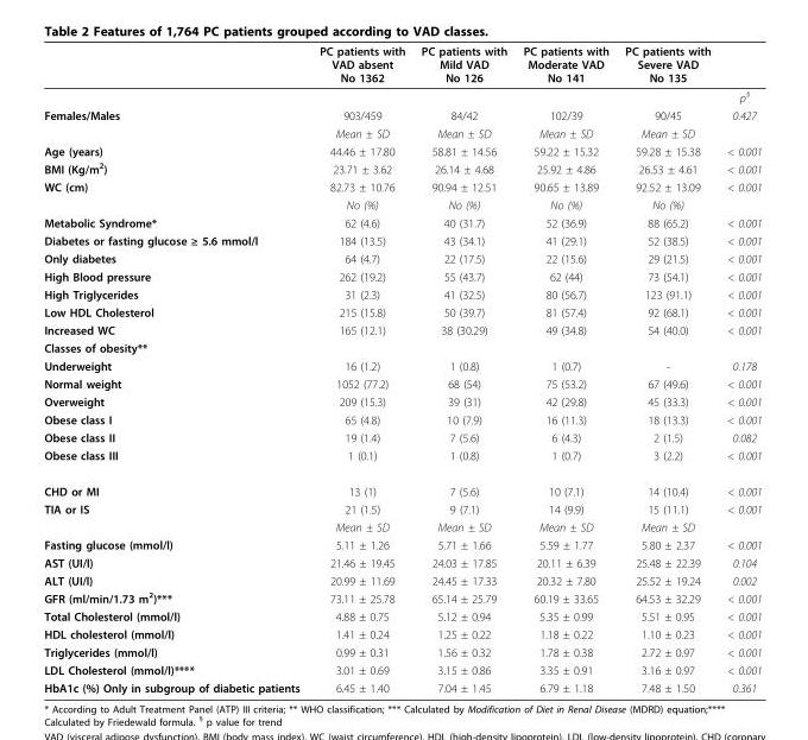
<table><thead><tr><td></td><td>PC patients with VAD absent No 1362</td><td>PC patients with Mild VAD No 126</td><td>PC patients with Moderate VAD No 141</td><td>PC patients with Severe VAD No 135</td><td></td></tr></thead><tbody><tr><td></td><td></td><td></td><td></td><td></td><td>p<sup>§</sup></td></tr><tr><td rowspan="2">Females/Males</td><td>903/459</td><td>84/42</td><td>102/39</td><td>90/45</td><td>0.427</td></tr><tr><td>Mean ± SD</td><td>Mean ± SD</td><td>Mean ± SD</td><td>Mean ± SD</td><td></td></tr><tr><td>Age (years)</td><td>44.46 ± 17.80</td><td>58.81 ± 14.56</td><td>59.22 ± 15.32</td><td>59.28 ± 15.38</td><td>&lt; 0.001</td></tr><tr><td>BMI (Kg/m<sup>2</sup>)</td><td>23.71 ± 3.62</td><td>26.14 ± 4.68</td><td>25.92 ± 4.86</td><td>26.53 ± 4.61</td><td>&lt; 0.001</td></tr><tr><td rowspan="2">WC (cm)</td><td>82.73 ± 10.76</td><td>90.94 ± 12.51</td><td>90.65 ± 13.89</td><td>92.52 ± 13.09</td><td>&lt; 0.001</td></tr><tr><td>No (%)</td><td>No (%)</td><td>No (%)</td><td>No (%)</td><td></td></tr><tr><td>Metabolic Syndrome*</td><td>62 (4.6)</td><td>40 (31.7)</td><td>52 (36.9)</td><td>88 (65.2)</td><td>&lt; 0.001</td></tr><tr><td>Diabetes or fasting glucose ≥ 5.6 mmol/l</td><td>184 (13.5)</td><td>43 (34.1)</td><td>41 (29.1)</td><td>52 (38.5)</td><td>&lt; 0.001</td></tr><tr><td>Only diabetes</td><td>64 (4.7)</td><td>22 (17.5)</td><td>22 (15.6)</td><td>29 (21.5)</td><td>&lt; 0.001</td></tr><tr><td>High Blood pressure</td><td>262 (19.2)</td><td>55 (43.7)</td><td>62 (44)</td><td>73 (54.1)</td><td>&lt; 0.001</td></tr><tr><td>High Triglycerides</td><td>31 (2.3)</td><td>41 (32.5)</td><td>80 (56.7)</td><td>123 (91.1)</td><td>&lt; 0.001</td></tr><tr><td>Low HDL Cholesterol</td><td>215 (15.8)</td><td>50 (39.7)</td><td>81 (57.4)</td><td>92 (68.1)</td><td>&lt; 0.001</td></tr><tr><td>Increased WC</td><td>165 (12.1)</td><td>38 (30.29)</td><td>49 (34.8)</td><td>54 (40.0)</td><td>&lt; 0.001</td></tr><tr><td colspan="6">Classes of obesity**</td></tr><tr><td>Underweight</td><td>16 (1.2)</td><td>1 (0.8)</td><td>1 (0.7)</td><td>-</td><td>0.178</td></tr><tr><td>Normal weight</td><td>1052 (77.2)</td><td>68 (54)</td><td>75 (53.2)</td><td>67 (49.6)</td><td>&lt; 0.001</td></tr><tr><td>Overweight</td><td>209 (15.3)</td><td>39 (31)</td><td>42 (29.8)</td><td>45 (33.3)</td><td>&lt; 0.001</td></tr><tr><td>Obese class I</td><td>65 (4.8)</td><td>10 (7.9)</td><td>16 (11.3)</td><td>18 (13.3)</td><td>&lt; 0.001</td></tr><tr><td>Obese class II</td><td>19 (1.4)</td><td>7 (5.6)</td><td>6 (4.3)</td><td>2 (1.5)</td><td>0.082</td></tr><tr><td>Obese class III</td><td>1 (0.1)</td><td>1 (0.8)</td><td>1 (0.7)</td><td>3 (2.2)</td><td>&lt; 0.001</td></tr><tr><td>CHD or MI</td><td>13 (1)</td><td>7 (5.6)</td><td>10 (7.1)</td><td>14 (10.4)</td><td>&lt; 0.001</td></tr><tr><td rowspan="2">TIA or IS</td><td>21 (1.5)</td><td>9 (7.1)</td><td>14 (9.9)</td><td>15 (11.1)</td><td>&lt; 0.001</td></tr><tr><td>Mean ± SD</td><td>Mean ± SD</td><td>Mean ± SD</td><td>Mean ± SD</td><td></td></tr><tr><td>Fasting glucose (mmol/l)</td><td>5.11 ± 1.26</td><td>5.71 ± 1.66</td><td>5.59 ± 1.77</td><td>5.80 ± 2.37</td><td>&lt; 0.001</td></tr><tr><td>AST (UI/l)</td><td>21.46 ± 19.45</td><td>24.03 ± 17.85</td><td>20.11 ± 6.39</td><td>25.48 ± 22.39</td><td>0.104</td></tr><tr><td>ALT (UI/l)</td><td>20.99 ± 11.69</td><td>24.45 ± 17.33</td><td>20.32 ± 7.80</td><td>25.52 ± 19.24</td><td>0.002</td></tr><tr><td>GFR (ml/min/1.73 m<sup>2</sup>)***</td><td>73.11 ± 25.78</td><td>65.14 ± 25.79</td><td>60.19 ± 33.65</td><td>64.53 ± 32.29</td><td>&lt; 0.001</td></tr><tr><td>Total Cholesterol (mmol/l)</td><td>4.88 ± 0.75</td><td>5.12 ± 0.94</td><td>5.35 ± 0.99</td><td>5.51 ± 0.95</td><td>&lt; 0.001</td></tr><tr><td>HDL cholesterol (mmol/l)</td><td>1.41 ± 0.24</td><td>1.25 ± 0.22</td><td>1.18 ± 0.22</td><td>1.10 ± 0.23</td><td>&lt; 0.001</td></tr><tr><td>Triglycerides (mmol/l)</td><td>0.99 ± 0.31</td><td>1.56 ± 0.32</td><td>1.78 ± 0.38</td><td>2.72 ± 0.97</td><td>&lt; 0.001</td></tr><tr><td>LDL Cholesterol (mmol/l)****</td><td>3.01 ± 0.69</td><td>3.15 ± 0.86</td><td>3.35 ± 0.91</td><td>3.16 ± 0.97</td><td>&lt; 0.001</td></tr><tr><td>HbA1c (%) Only in subgroup of diabetic patients</td><td>6.45 ± 1.40</td><td>7.04 ± 1.45</td><td>6.79 ± 1.18</td><td>7.48 ± 1.50</td><td>0.361</td></tr></tbody></table>